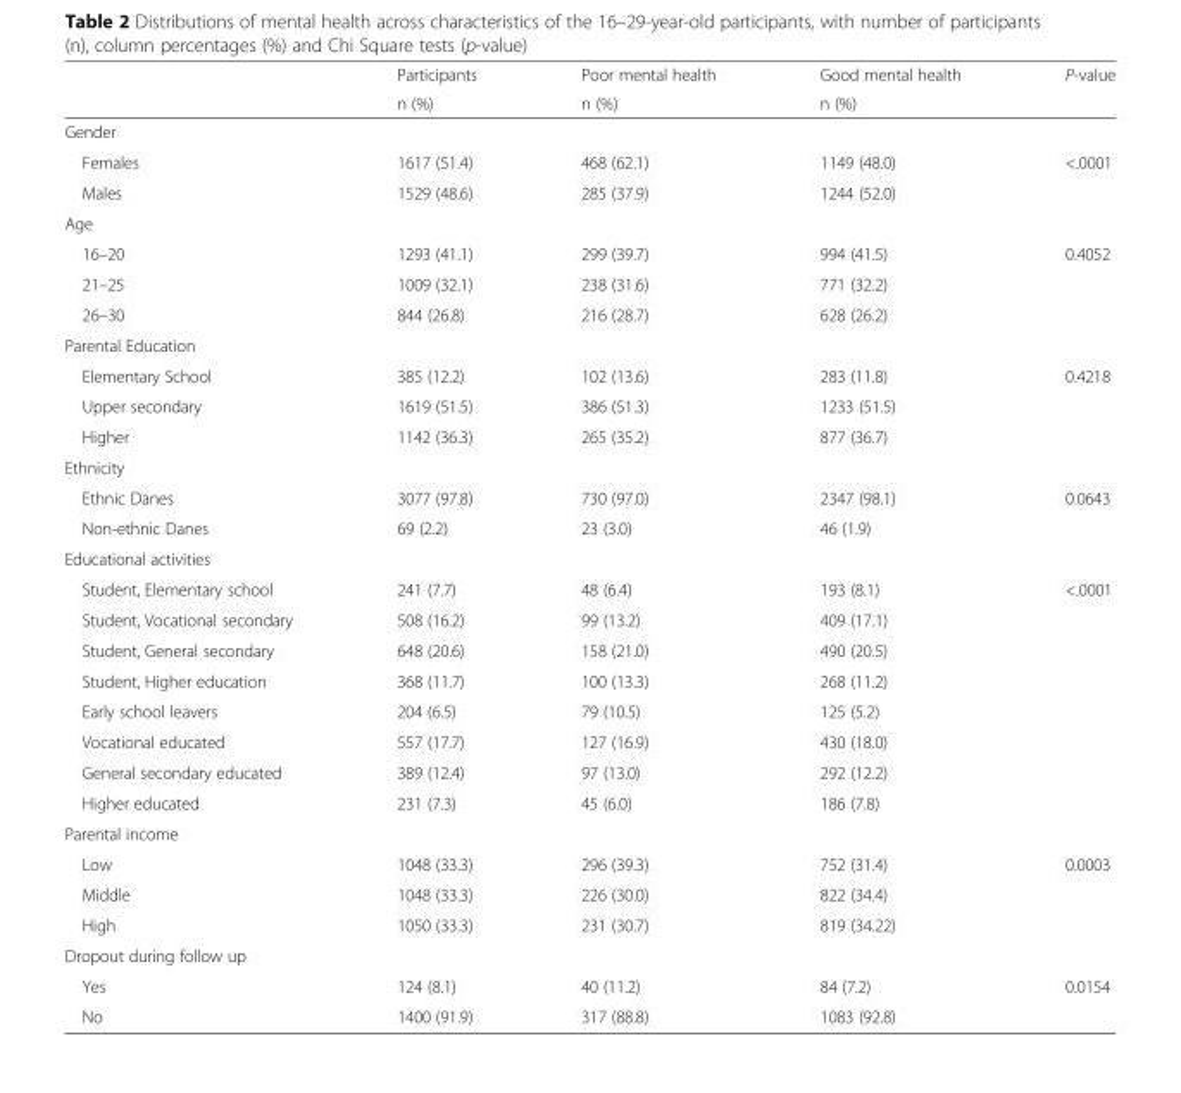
<table><thead><tr><td rowspan="2"></td><td rowspan="2">Participants n (%)</td><td rowspan="2">Poor mental health n (%)</td><td rowspan="2">Good mental health n (%)</td><td rowspan="2">P-value</td></tr><tr></tr></thead><tbody><tr><td colspan="5">Gender</td></tr><tr><td>Females</td><td>1617 (51.4)</td><td>468 (62.1)</td><td>1149 (48.0)</td><td rowspan="2">&lt;.0001</td></tr><tr><td>Males</td><td>1529 (48.6)</td><td>285 (37.9)</td><td>1244 (52.0)</td></tr><tr><td colspan="5">Age</td></tr><tr><td>16–20</td><td>1293 (41.1)</td><td>299 (39.7)</td><td>994 (41.5)</td><td rowspan="3">0.4052</td></tr><tr><td>21–25</td><td>1009 (32.1)</td><td>238 (31.6)</td><td>771 (32.2)</td></tr><tr><td>26–30</td><td>844 (26.8)</td><td>216 (28.7)</td><td>628 (26.2)</td></tr><tr><td colspan="5">Parental Education</td></tr><tr><td>Elementary School</td><td>385 (12.2)</td><td>102 (13.6)</td><td>283 (11.8)</td><td rowspan="3">0.4218</td></tr><tr><td>Upper secondary</td><td>1619 (51.5)</td><td>386 (51.3)</td><td>1233 (51.5)</td></tr><tr><td>Higher</td><td>1142 (36.3)</td><td>265 (35.2)</td><td>877 (36.7)</td></tr><tr><td colspan="5">Ethnicity</td></tr><tr><td>Ethnic Danes</td><td>3077 (97.8)</td><td>730 (97.0)</td><td>2347 (98.1)</td><td rowspan="2">0.0643</td></tr><tr><td>Non-ethnic Danes</td><td>69 (2.2)</td><td>23 (3.0)</td><td>46 (1.9)</td></tr><tr><td colspan="5">Educational activities</td></tr><tr><td>Student, Elementary school</td><td>241 (7.7)</td><td>48 (6.4)</td><td>193 (8.1)</td><td rowspan="8">&lt;.0001</td></tr><tr><td>Student, Vocational secondary</td><td>508 (16.2)</td><td>99 (13.2)</td><td>409 (17.1)</td></tr><tr><td>Student, General secondary</td><td>648 (20.6)</td><td>158 (21.0)</td><td>490 (20.5)</td></tr><tr><td>Student, Higher education</td><td>368 (11.7)</td><td>100 (13.3)</td><td>268 (11.2)</td></tr><tr><td>Early school leavers</td><td>204 (6.5)</td><td>79 (10.5)</td><td>125 (5.2)</td></tr><tr><td>Vocational educated</td><td>557 (17.7)</td><td>127 (16.9)</td><td>430 (18.0)</td></tr><tr><td>General secondary educated</td><td>389 (12.4)</td><td>97 (13.0)</td><td>292 (12.2)</td></tr><tr><td>Higher educated</td><td>231 (7.3)</td><td>45 (6.0)</td><td>186 (7.8)</td></tr><tr><td colspan="5">Parental income</td></tr><tr><td>Low</td><td>1048 (33.3)</td><td>296 (39.3)</td><td>752 (31.4)</td><td rowspan="3">0.0003</td></tr><tr><td>Middle</td><td>1048 (33.3)</td><td>226 (30.0)</td><td>822 (34.4)</td></tr><tr><td>High</td><td>1050 (33.3)</td><td>231 (30.7)</td><td>819 (34.22)</td></tr><tr><td colspan="5">Dropout during follow up</td></tr><tr><td>Yes</td><td>124 (8.1)</td><td>40 (11.2)</td><td>84 (7.2)</td><td rowspan="2">0.0154</td></tr><tr><td>No</td><td>1400 (91.9)</td><td>317 (88.8)</td><td>1083 (92.8)</td></tr></tbody></table>